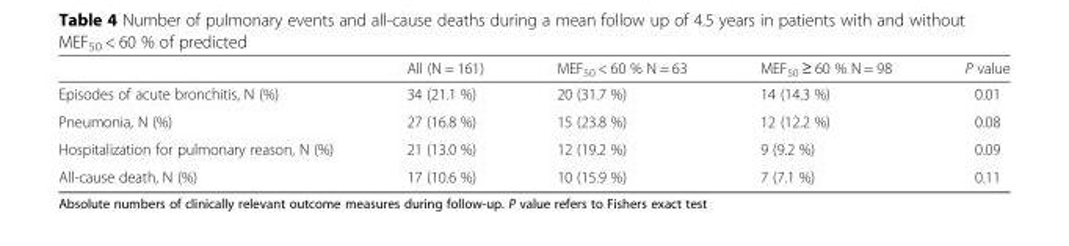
<table><thead><tr><td></td><td>All (N = 161)</td><td>MEF<sub>50</sub> &lt; 60 % N = 63</td><td>MEF<sub>50</sub> ≥ 60 % N = 98</td><td>P value</td></tr></thead><tbody><tr><td>Episodes of acute bronchitis, N (%)</td><td>34 (21.1 %)</td><td>20 (31.7 %)</td><td>14 (14.3 %)</td><td>0.01</td></tr><tr><td>Pneumonia, N (%)</td><td>27 (16.8 %)</td><td>15 (23.8 %)</td><td>12 (12.2 %)</td><td>0.08</td></tr><tr><td>Hospitalization for pulmonary reason, N (%)</td><td>21 (13.0 %)</td><td>12 (19.2 %)</td><td>9 (9.2 %)</td><td>0.09</td></tr><tr><td>All-cause death, N (%)</td><td>17 (10.6 %)</td><td>10 (15.9 %)</td><td>7 (7.1 %)</td><td>0.11</td></tr></tbody></table>